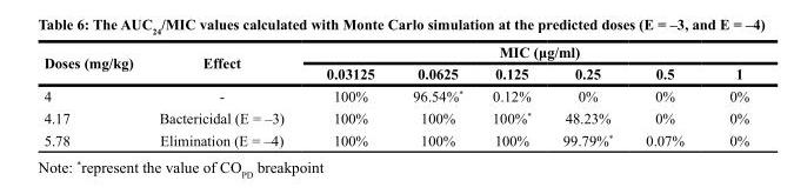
<table><thead><tr><td rowspan="2">Doses (mg/kg)</td><td rowspan="2">Effect</td><td colspan="6">MIC (μg/ml)</td></tr><tr><td>0.03125</td><td>0.0625</td><td>0.125</td><td>0.25</td><td>0.5</td><td>1</td></tr></thead><tbody><tr><td>4</td><td>-</td><td>100%</td><td>96.54%*</td><td>0.12%</td><td>0%</td><td>0%</td><td>0%</td></tr><tr><td>4.17</td><td>Bactericidal (E = –3)</td><td>100%</td><td>100%</td><td>100%*</td><td>48.23%</td><td>0%</td><td>0%</td></tr><tr><td>5.78</td><td>Elimination (E = –4)</td><td>100%</td><td>100%</td><td>100%</td><td>99.79%*</td><td>0.07%</td><td>0%</td></tr></tbody></table>